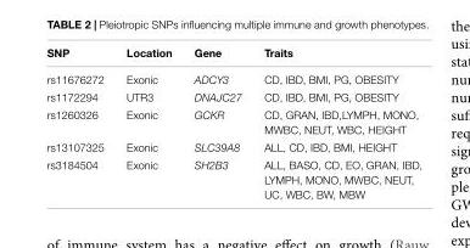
<table><thead><tr><td>SNP</td><td>Location</td><td>Gene</td><td>Traits</td></tr></thead><tbody><tr><td>rs11676272</td><td>Exonic</td><td>ADCY3</td><td>CD, IBD, BMI, PG, OBESITY</td></tr><tr><td>rs1172294</td><td>UTR3</td><td>DNAJC27</td><td>CD, IBD, BMI, PG, OBESITY</td></tr><tr><td>rs1260326</td><td>Exonic</td><td>GCKR</td><td>CD, GRAN, IBD,LYMPH, MONO, MWBC, NEUT, WBC, HEIGHT</td></tr><tr><td>rs13107325</td><td>Exonic</td><td>SLC39A8</td><td>ALL, CD, IBD, BMI, HEIGHT</td></tr><tr><td>rs3184504</td><td>Exonic</td><td>SH2B3</td><td>ALL, BASO, CD, EO, GRAN, IBD, LYMPH, MONO, MWBC, NEUT, UC, WBC, BW, MBW</td></tr></tbody></table>